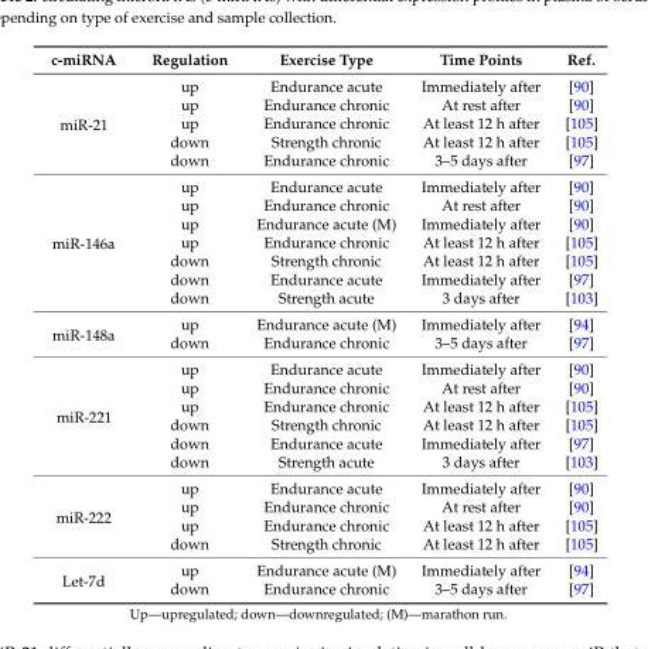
<table><thead><tr><td>c-miRNA</td><td>Regulation</td><td>Exercise Type</td><td>Time Points</td><td>Ref.</td></tr></thead><tbody><tr><td rowspan="5">miR-21</td><td>up</td><td>Endurance acute</td><td>Immediately after</td><td>[90]</td></tr><tr><td>up</td><td>Endurance chronic</td><td>At rest after</td><td>[90]</td></tr><tr><td>up</td><td>Endurance chronic</td><td>At least 12 h after</td><td>[105]</td></tr><tr><td>down</td><td>Strength chronic</td><td>At least 12 h after</td><td>[105]</td></tr><tr><td>down</td><td>Endurance chronic</td><td>3–5 days after</td><td>[97]</td></tr><tr><td rowspan="7">miR-146a</td><td>up</td><td>Endurance acute</td><td>Immediately after</td><td>[90]</td></tr><tr><td>up</td><td>Endurance chronic</td><td>At rest after</td><td>[90]</td></tr><tr><td>up</td><td>Endurance acute (M)</td><td>Immediately after</td><td>[90]</td></tr><tr><td>up</td><td>Endurance chronic</td><td>At least 12 h after</td><td>[105]</td></tr><tr><td>down</td><td>Strength chronic</td><td>At least 12 h after</td><td>[105]</td></tr><tr><td>down</td><td>Endurance acute</td><td>Immediately after</td><td>[97]</td></tr><tr><td>down</td><td>Strength acute</td><td>3 days after</td><td>[103]</td></tr><tr><td rowspan="2">miR-148a</td><td>up</td><td>Endurance acute (M)</td><td>Immediately after</td><td>[94]</td></tr><tr><td>down</td><td>Endurance chronic</td><td>3–5 days after</td><td>[97]</td></tr><tr><td rowspan="6">miR-221</td><td>up</td><td>Endurance acute</td><td>Immediately after</td><td>[90]</td></tr><tr><td>up</td><td>Endurance chronic</td><td>At rest after</td><td>[90]</td></tr><tr><td>up</td><td>Endurance chronic</td><td>At least 12 h after</td><td>[105]</td></tr><tr><td>down</td><td>Strength chronic</td><td>At least 12 h after</td><td>[105]</td></tr><tr><td>down</td><td>Endurance acute</td><td>Immediately after</td><td>[97]</td></tr><tr><td>down</td><td>Strength acute</td><td>3 days after</td><td>[103]</td></tr><tr><td rowspan="4">miR-222</td><td>up</td><td>Endurance acute</td><td>Immediately after</td><td>[90]</td></tr><tr><td>up</td><td>Endurance chronic</td><td>At rest after</td><td>[90]</td></tr><tr><td>up</td><td>Endurance chronic</td><td>At least 12 h after</td><td>[105]</td></tr><tr><td>down</td><td>Strength chronic</td><td>At least 12 h after</td><td>[105]</td></tr><tr><td rowspan="2">Let-7d</td><td>up</td><td>Endurance acute (M)</td><td>Immediately after</td><td>[94]</td></tr><tr><td>down</td><td>Endurance chronic</td><td>3–5 days after</td><td>[97]</td></tr></tbody></table>